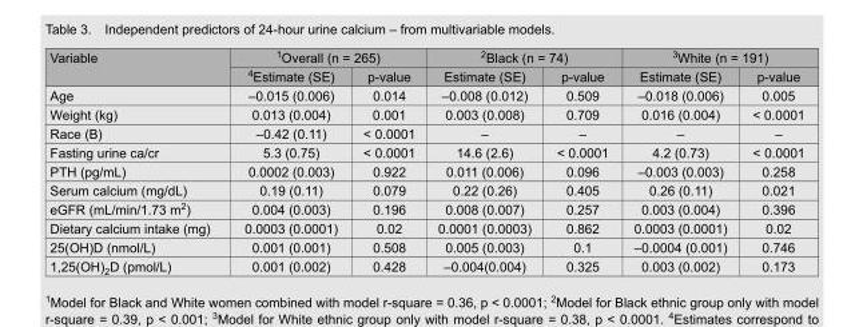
<table><thead><tr><td rowspan="2">Variable</td><td colspan="2"><sup>1</sup>Overall (n = 265)</td><td colspan="2"><sup>2</sup>Black (n = 74)</td><td colspan="2"><sup>3</sup>White (n = 191)</td></tr><tr><td><sup>4</sup>Estimate (SE)</td><td>p-value</td><td>Estimate (SE)</td><td>p-value</td><td>Estimate (SE)</td><td>p-value</td></tr></thead><tbody><tr><td>Age</td><td>–0.015 (0.006)</td><td>0.014</td><td>–0.008 (0.012)</td><td>0.509</td><td>–0.018 (0.006)</td><td>0.005</td></tr><tr><td>Weight (kg)</td><td>0.013 (0.004)</td><td>0.001</td><td>0.003 (0.008)</td><td>0.709</td><td>0.016 (0.004)</td><td>&lt; 0.0001</td></tr><tr><td>Race (B)</td><td>–0.42 (0.11)</td><td>&lt; 0.0001</td><td>–</td><td>–</td><td>–</td><td>–</td></tr><tr><td>Fasting urine ca/cr</td><td>5.3 (0.75)</td><td>&lt; 0.0001</td><td>14.6 (2.6)</td><td>&lt; 0.0001</td><td>4.2 (0.73)</td><td>&lt; 0.0001</td></tr><tr><td>PTH (pg/mL)</td><td>0.0002 (0.003)</td><td>0.922</td><td>0.011 (0.006)</td><td>0.096</td><td>–0.003 (0.003)</td><td>0.258</td></tr><tr><td>Serum calcium (mg/dL)</td><td>0.19 (0.11)</td><td>0.079</td><td>0.22 (0.26)</td><td>0.405</td><td>0.26 (0.11)</td><td>0.021</td></tr><tr><td>eGFR (mL/min/1.73 m<sup>2</sup>)</td><td>0.004 (0.003)</td><td>0.196</td><td>0.008 (0.007)</td><td>0.257</td><td>0.003 (0.004)</td><td>0.396</td></tr><tr><td>Dietary calcium intake (mg)</td><td>0.0003 (0.0001)</td><td>0.02</td><td>0.0001 (0.0003)</td><td>0.862</td><td>0.0003 (0.0001)</td><td>0.02</td></tr><tr><td>25(OH)D (nmol/L)</td><td>0.001 (0.001)</td><td>0.508</td><td>0.005 (0.003)</td><td>0.1</td><td>–0.0004 (0.001)</td><td>0.746</td></tr><tr><td>1,25(OH)<sub>2</sub>D (pmol/L)</td><td>0.001 (0.002)</td><td>0.428</td><td>–0.004(0.004)</td><td>0.325</td><td>0.003 (0.002)</td><td>0.173</td></tr></tbody></table>